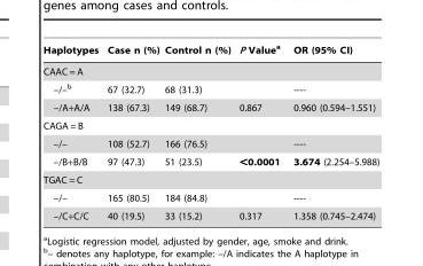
<table><thead><tr><td>Haplotypes</td><td>Case n (%)</td><td>Control n (%)</td><td>P Value<sup>a</sup></td><td>OR (95% CI)</td></tr></thead><tbody><tr><td colspan="5">CAAC = A</td></tr><tr><td>–/–b</td><td>67 (32.7)</td><td>68 (31.3)</td><td></td><td>----</td></tr><tr><td>–/A+A/A</td><td>138 (67.3)</td><td>149 (68.7)</td><td>0.867</td><td>0.960 (0.594–1.551)</td></tr><tr><td colspan="5">CAGA = B</td></tr><tr><td>–/–</td><td>108 (52.7)</td><td>166 (76.5)</td><td></td><td>----</td></tr><tr><td>–/B+B/B</td><td>97 (47.3)</td><td>51 (23.5)</td><td>&lt;0.0001</td><td>3.674 (2.254–5.988)</td></tr><tr><td colspan="5">TGAC = C</td></tr><tr><td>–/–</td><td>165 (80.5)</td><td>184 (84.8)</td><td></td><td>----</td></tr><tr><td>–/C+C/C</td><td>40 (19.5)</td><td>33 (15.2)</td><td>0.317</td><td>1.358 (0.745–2.474)</td></tr></tbody></table>